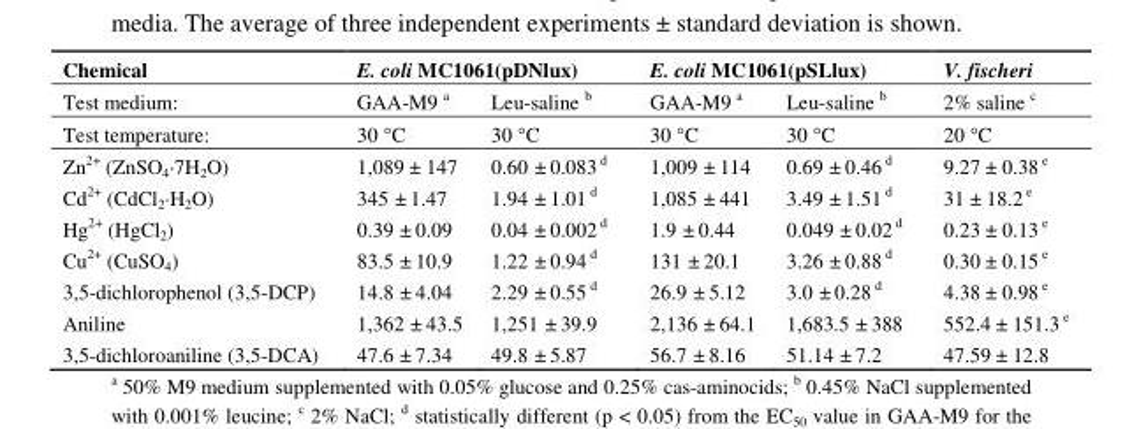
<table><thead><tr><td rowspan="3">Chemical Test medium: Test temperature:</td><td colspan="2">E. coli MC1061(pDNlux)</td><td colspan="2">E. coli MC1061(pSLlux)</td><td rowspan="3">V. fischeri 2% saline c 20 °C</td></tr><tr><td rowspan="2">GAA-M9 a 30 °C</td><td rowspan="2">Leu-saline b 30 °C</td><td rowspan="2">GAA-M9 a 30 °C</td><td rowspan="2">Leu-saline b 30 °C</td></tr><tr></tr></thead><tbody><tr><td>Zn<sup>2+</sup> (ZnSO<sub>4</sub>·7H<sub>2</sub>O)</td><td>1,089 ± 147</td><td>0.60 ± 0.083 <sup>d</sup></td><td>1,009 ± 114</td><td>0.69 ± 0.46 <sup>d</sup></td><td>9.27 ± 0.38 <sup>e</sup></td></tr><tr><td>Cd<sup>2+</sup> (CdCl<sub>2</sub>·H<sub>2</sub>O)</td><td>345 ± 1.47</td><td>1.94 ± 1.01 <sup>d</sup></td><td>1,085 ± 441</td><td>3.49 ± 1.51 <sup>d</sup></td><td>31 ± 18.2 <sup>e</sup></td></tr><tr><td>Hg<sup>2+</sup> (HgCl<sub>2</sub>)</td><td>0.39 ± 0.09</td><td>0.04 ± 0.002 <sup>d</sup></td><td>1.9 ± 0.44</td><td>0.049 ± 0.02 <sup>d</sup></td><td>0.23 ± 0.13 <sup>e</sup></td></tr><tr><td>Cu<sup>2+</sup> (CuSO<sub>4</sub>)</td><td>83.5 ± 10.9</td><td>1.22 ± 0.94 <sup>d</sup></td><td>131 ± 20.1</td><td>3.26 ± 0.88 <sup>d</sup></td><td>0.30 ± 0.15 <sup>e</sup></td></tr><tr><td>3,5-dichlorophenol (3,5-DCP)</td><td>14.8 ± 4.04</td><td>2.29 ± 0.55 <sup>d</sup></td><td>26.9 ± 5.12</td><td>3.0 ± 0.28 <sup>d</sup></td><td>4.38 ± 0.98 <sup>e</sup></td></tr><tr><td>Aniline</td><td>1,362 ± 43.5</td><td>1,251 ± 39.9</td><td>2,136 ± 64.1</td><td>1,683.5 ± 388</td><td>552.4 ± 151.3 <sup>e</sup></td></tr><tr><td>3,5-dichloroaniline (3,5-DCA)</td><td>47.6 ± 7.34</td><td>49.8 ± 5.87</td><td>56.7 ± 8.16</td><td>51.14 ± 7.2</td><td>47.59 ± 12.8</td></tr></tbody></table>